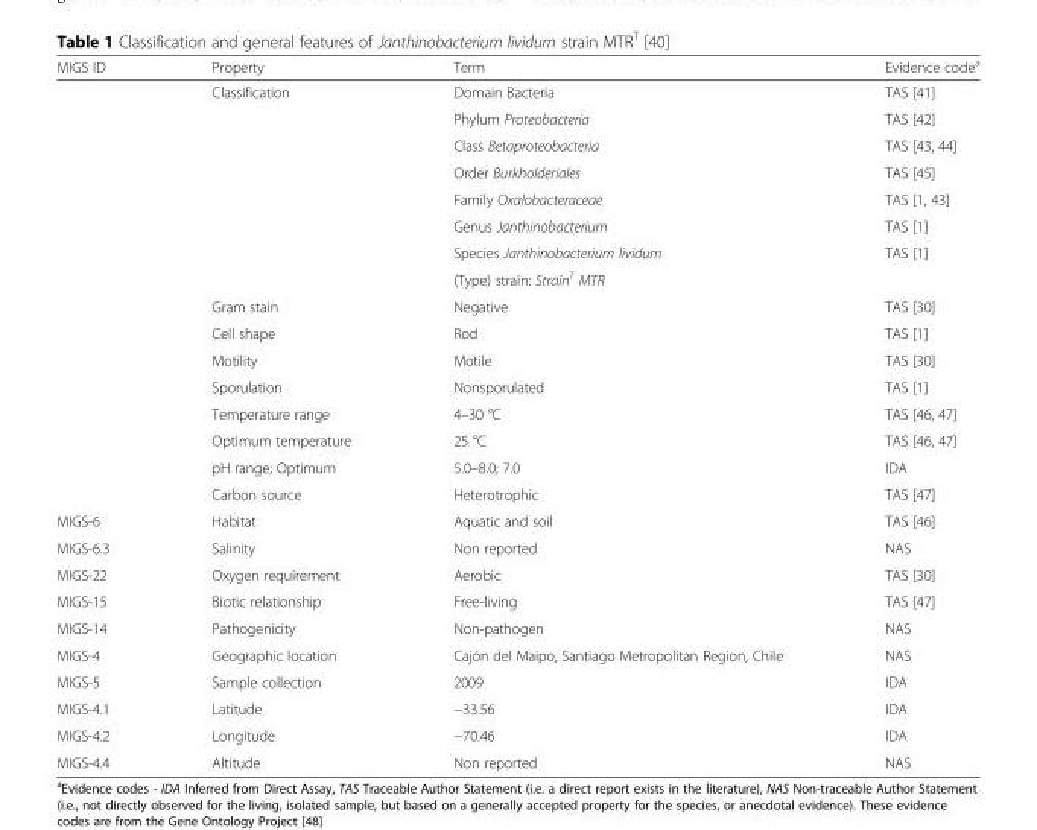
<table><thead><tr><td>MIGS ID</td><td>Property</td><td>Term</td><td>Evidence code<sup>a</sup></td></tr></thead><tbody><tr><td></td><td>Classification</td><td>Domain Bacteria</td><td>TAS [41]</td></tr><tr><td></td><td></td><td>Phylum Proteobacteria</td><td>TAS [42]</td></tr><tr><td></td><td></td><td>Class Betaproteobacteria</td><td>TAS [43, 44]</td></tr><tr><td></td><td></td><td>Order Burkholderiales</td><td>TAS [45]</td></tr><tr><td></td><td></td><td>Family Oxalobacteraceae</td><td>TAS [1, 43]</td></tr><tr><td></td><td></td><td>Genus Janthinobacterium</td><td>TAS [1]</td></tr><tr><td></td><td></td><td>Species Janthinobacterium lividum</td><td>TAS [1]</td></tr><tr><td></td><td></td><td>(Type) strain: Strain<sup>T</sup> MTR</td><td></td></tr><tr><td></td><td>Gram stain</td><td>Negative</td><td>TAS [30]</td></tr><tr><td></td><td>Cell shape</td><td>Rod</td><td>TAS [1]</td></tr><tr><td></td><td>Motility</td><td>Motile</td><td>TAS [30]</td></tr><tr><td></td><td>Sporulation</td><td>Nonsporulated</td><td>TAS [1]</td></tr><tr><td></td><td>Temperature range</td><td>4–30 °C</td><td>TAS [46, 47]</td></tr><tr><td></td><td>Optimum temperature</td><td>25 °C</td><td>TAS [46, 47]</td></tr><tr><td></td><td>pH range; Optimum</td><td>5.0–8.0; 7.0</td><td>IDA</td></tr><tr><td></td><td>Carbon source</td><td>Heterotrophic</td><td>TAS [47]</td></tr><tr><td>MIGS-6</td><td>Habitat</td><td>Aquatic and soil</td><td>TAS [46]</td></tr><tr><td>MIGS-6.3</td><td>Salinity</td><td>Non reported</td><td>NAS</td></tr><tr><td>MIGS-22</td><td>Oxygen requirement</td><td>Aerobic</td><td>TAS [30]</td></tr><tr><td>MIGS-15</td><td>Biotic relationship</td><td>Free-living</td><td>TAS [47]</td></tr><tr><td>MIGS-14</td><td>Pathogenicity</td><td>Non-pathogen</td><td>NAS</td></tr><tr><td>MIGS-4</td><td>Geographic location</td><td>Cajón del Maipo, Santiago Metropolitan Region, Chile</td><td>NAS</td></tr><tr><td>MIGS-5</td><td>Sample collection</td><td>2009</td><td>IDA</td></tr><tr><td>MIGS-4.1</td><td>Latitude</td><td>−33.56</td><td>IDA</td></tr><tr><td>MIGS-4.2</td><td>Longitude</td><td>−70.46</td><td>IDA</td></tr><tr><td>MIGS-4.4</td><td>Altitude</td><td>Non reported</td><td>NAS</td></tr></tbody></table>